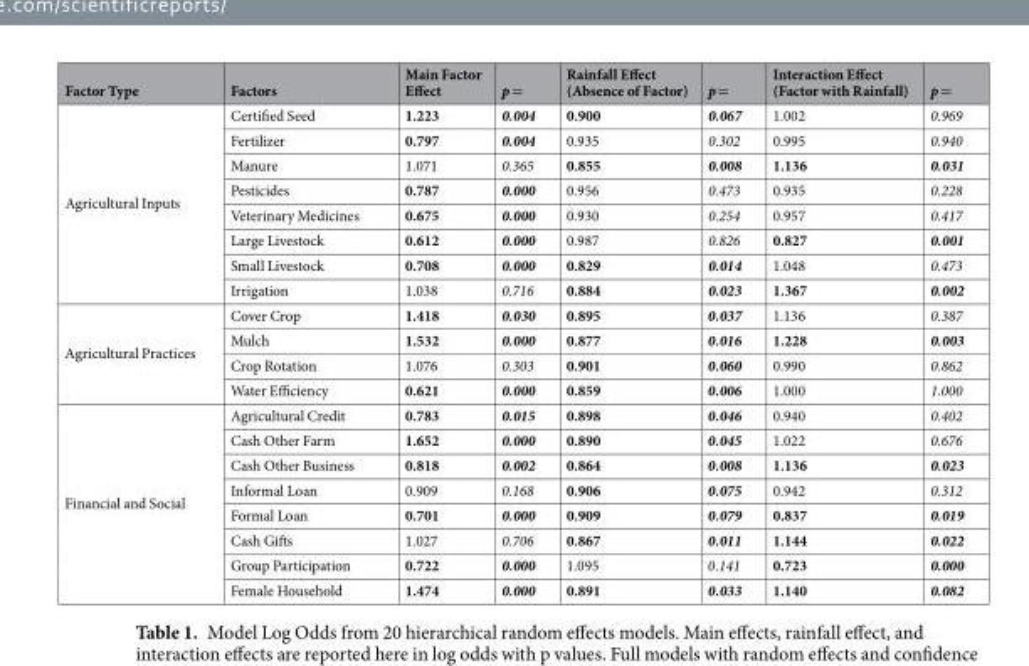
<table><thead><tr><td>Factor Type</td><td>Factors</td><td>Main Factor Effect</td><td>p =</td><td>Rainfall Effect (Absence of Factor)</td><td>p =</td><td>Interaction Effect (Factor with Rainfall)</td><td>p =</td></tr></thead><tbody><tr><td rowspan="8">Agricultural Inputs</td><td>Certified Seed</td><td>1.223</td><td>0.004</td><td>0.900</td><td>0.067</td><td>1.002</td><td>0.969</td></tr><tr><td>Fertilizer</td><td>0.797</td><td>0.004</td><td>0.935</td><td>0.302</td><td>0.995</td><td>0.940</td></tr><tr><td>Manure</td><td>1.071</td><td>0.365</td><td>0.855</td><td>0.008</td><td>1.136</td><td>0.031</td></tr><tr><td>Pesticides</td><td>0.787</td><td>0.000</td><td>0.956</td><td>0.473</td><td>0.935</td><td>0.228</td></tr><tr><td>Veterinary Medicines</td><td>0.675</td><td>0.000</td><td>0.930</td><td>0.254</td><td>0.957</td><td>0.417</td></tr><tr><td>Large Livestock</td><td>0.612</td><td>0.000</td><td>0.987</td><td>0.826</td><td>0.827</td><td>0.001</td></tr><tr><td>Small Livestock</td><td>0.708</td><td>0.000</td><td>0.829</td><td>0.014</td><td>1.048</td><td>0.473</td></tr><tr><td>Irrigation</td><td>1.038</td><td>0.716</td><td>0.884</td><td>0.023</td><td>1.367</td><td>0.002</td></tr><tr><td rowspan="4">Agricultural Practices</td><td>Cover Crop</td><td>1.418</td><td>0.030</td><td>0.895</td><td>0.037</td><td>1.136</td><td>0.387</td></tr><tr><td>Mulch</td><td>1.532</td><td>0.000</td><td>0.877</td><td>0.016</td><td>1.228</td><td>0.003</td></tr><tr><td>Crop Rotation</td><td>1.076</td><td>0.303</td><td>0.901</td><td>0.060</td><td>0.990</td><td>0.862</td></tr><tr><td>Water Efficiency</td><td>0.621</td><td>0.000</td><td>0.859</td><td>0.006</td><td>1.000</td><td>1.000</td></tr><tr><td rowspan="8">Financial and Social</td><td>Agricultural Credit</td><td>0.783</td><td>0.015</td><td>0.898</td><td>0.046</td><td>0.940</td><td>0.402</td></tr><tr><td>Cash Other Farm</td><td>1.652</td><td>0.000</td><td>0.890</td><td>0.045</td><td>1.022</td><td>0.676</td></tr><tr><td>Cash Other Business</td><td>0.818</td><td>0.002</td><td>0.864</td><td>0.008</td><td>1.136</td><td>0.023</td></tr><tr><td>Informal Loan</td><td>0.909</td><td>0.168</td><td>0.906</td><td>0.075</td><td>0.942</td><td>0.312</td></tr><tr><td>Formal Loan</td><td>0.701</td><td>0.000</td><td>0.909</td><td>0.079</td><td>0.837</td><td>0.019</td></tr><tr><td>Cash Gifts</td><td>1.027</td><td>0.706</td><td>0.867</td><td>0.011</td><td>1.144</td><td>0.022</td></tr><tr><td>Group Participation</td><td>0.722</td><td>0.000</td><td>1.095</td><td>0.141</td><td>0.723</td><td>0.000</td></tr><tr><td>Female Household</td><td>1.474</td><td>0.000</td><td>0.891</td><td>0.033</td><td>1.140</td><td>0.082</td></tr></tbody></table>